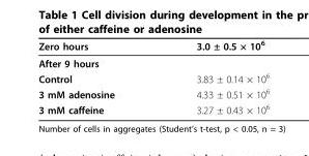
<table><thead><tr><td>Zero hours</td><td>3.0 ± 0.5 × 10<sup>6</sup></td></tr></thead><tbody><tr><td colspan="2">After 9 hours</td></tr><tr><td>Control</td><td>3.83 ± 0.14 × 10<sup>6</sup></td></tr><tr><td>3 mM adenosine</td><td>4.33 ± 0.51 × 10<sup>6</sup></td></tr><tr><td>3 mM caffeine</td><td>3.27 ± 0.43 × 10<sup>6</sup></td></tr></tbody></table>